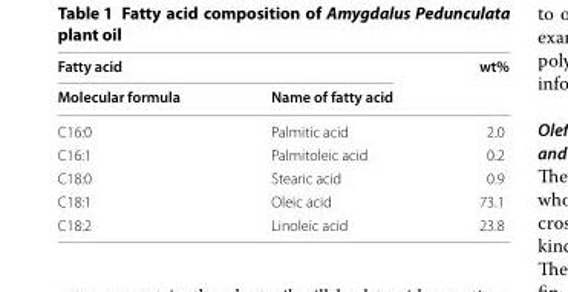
<table><thead><tr><td colspan="2">Fatty acid</td><td rowspan="2">wt%</td></tr><tr><td>Molecular formula</td><td>Name of fatty acid</td></tr></thead><tbody><tr><td>C16:0</td><td>Palmitic acid</td><td>2.0</td></tr><tr><td>C16:1</td><td>Palmitoleic acid</td><td>0.2</td></tr><tr><td>C18:0</td><td>Stearic acid</td><td>0.9</td></tr><tr><td>C18:1</td><td>Oleic acid</td><td>73.1</td></tr><tr><td>C18:2</td><td>Linoleic acid</td><td>23.8</td></tr></tbody></table>